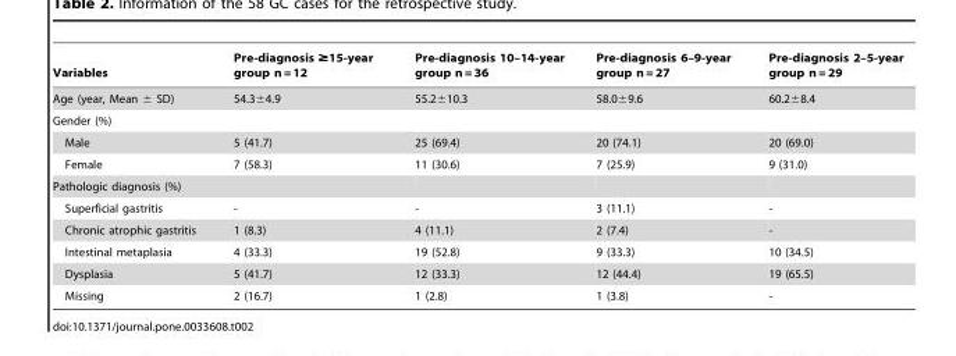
<table><thead><tr><td>Variables</td><td>Pre-diagnosis ≥15-year group n = 12</td><td>Pre-diagnosis 10–14-year group n = 36</td><td>Pre-diagnosis 6–9-year group n = 27</td><td>Pre-diagnosis 2–5-year group n = 29</td></tr></thead><tbody><tr><td>Age (year, Mean ± SD)</td><td>54.3±4.9</td><td>55.2±10.3</td><td>58.0±9.6</td><td>60.2±8.4</td></tr><tr><td colspan="5">Gender (%)</td></tr><tr><td>Male</td><td>5 (41.7)</td><td>25 (69.4)</td><td>20 (74.1)</td><td>20 (69.0)</td></tr><tr><td>Female</td><td>7 (58.3)</td><td>11 (30.6)</td><td>7 (25.9)</td><td>9 (31.0)</td></tr><tr><td colspan="5">Pathologic diagnosis (%)</td></tr><tr><td>Superficial gastritis</td><td>-</td><td>-</td><td>3 (11.1)</td><td>-</td></tr><tr><td>Chronic atrophic gastritis</td><td>1 (8.3)</td><td>4 (11.1)</td><td>2 (7.4)</td><td>-</td></tr><tr><td>Intestinal metaplasia</td><td>4 (33.3)</td><td>19 (52.8)</td><td>9 (33.3)</td><td>10 (34.5)</td></tr><tr><td>Dysplasia</td><td>5 (41.7)</td><td>12 (33.3)</td><td>12 (44.4)</td><td>19 (65.5)</td></tr><tr><td>Missing</td><td>2 (16.7)</td><td>1 (2.8)</td><td>1 (3.8)</td><td>-</td></tr></tbody></table>